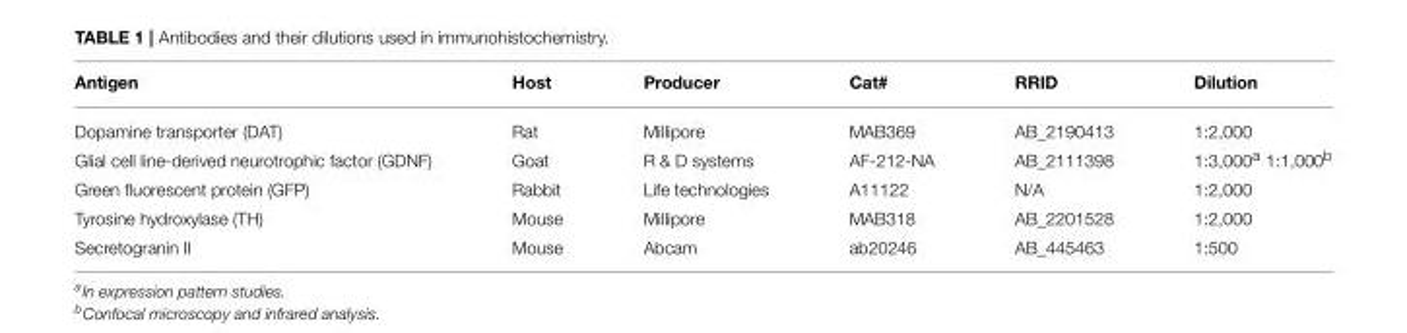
<table><thead><tr><td>Antigen</td><td>Host</td><td>Producer</td><td>Cat#</td><td>RRID</td><td>Dilution</td></tr></thead><tbody><tr><td>Dopamine transporter (DAT)</td><td>Rat</td><td>Millipore</td><td>MAB369</td><td>AB_2190413</td><td>1:2,000</td></tr><tr><td>Glial cell line-derived neurotrophic factor (GDNF)</td><td>Goat</td><td>R &amp; D systems</td><td>AF-212-NA</td><td>AB_2111398</td><td>1:3,000<sup>a</sup> 1:1,000<sup>b</sup></td></tr><tr><td>Green fluorescent protein (GFP)</td><td>Rabbit</td><td>Life technologies</td><td>A11122</td><td>N/A</td><td>1:2,000</td></tr><tr><td>Tyrosine hydroxylase (TH)</td><td>Mouse</td><td>Millipore</td><td>MAB318</td><td>AB_2201528</td><td>1:2,000</td></tr><tr><td>Secretogranin II</td><td>Mouse</td><td>Abcam</td><td>ab20246</td><td>AB_445463</td><td>1:500</td></tr></tbody></table>